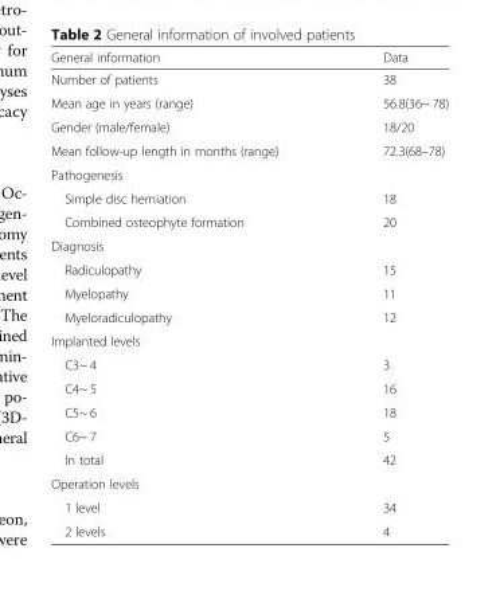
<table><thead><tr><td>General information</td><td>Data</td></tr></thead><tbody><tr><td>Number of patients</td><td>38</td></tr><tr><td>Mean age in years (range)</td><td>56.8(36~ 78)</td></tr><tr><td>Gender (male/female)</td><td>18/20</td></tr><tr><td>Mean follow-up length in months (range)</td><td>72.3(68–78)</td></tr><tr><td colspan="2">Pathogenesis</td></tr><tr><td>Simple disc herniation</td><td>18</td></tr><tr><td>Combined osteophyte formation</td><td>20</td></tr><tr><td colspan="2">Diagnosis</td></tr><tr><td>Radiculopathy</td><td>15</td></tr><tr><td>Myelopathy</td><td>11</td></tr><tr><td>Myeloradiculopathy</td><td>12</td></tr><tr><td colspan="2">Implanted levels</td></tr><tr><td>C3~ 4</td><td>3</td></tr><tr><td>C4~ 5</td><td>16</td></tr><tr><td>C5~ 6</td><td>18</td></tr><tr><td>C6~ 7</td><td>5</td></tr><tr><td>In total</td><td>42</td></tr><tr><td colspan="2">Operation levels</td></tr><tr><td>1 level</td><td>34</td></tr><tr><td>2 levels</td><td>4</td></tr></tbody></table>